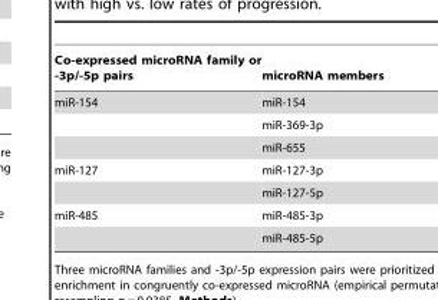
<table><thead><tr><td>Co-expressed microRNA family or -3p/-5p pairs</td><td>microRNA members</td></tr></thead><tbody><tr><td rowspan="3">miR-154</td><td>miR-154</td></tr><tr><td>miR-369-3p</td></tr><tr><td>miR-655</td></tr><tr><td rowspan="2">miR-127</td><td>miR-127-3p</td></tr><tr><td>miR-127-5p</td></tr><tr><td rowspan="2">miR-485</td><td>miR-485-3p</td></tr><tr><td>miR-485-5p</td></tr></tbody></table>